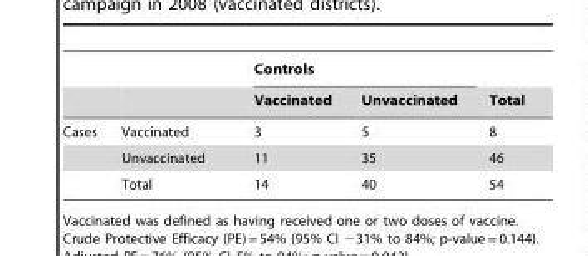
<table><thead><tr><td rowspan="2"></td><td rowspan="2"></td><td colspan="2">Controls</td><td rowspan="2">Total</td></tr><tr><td>Vaccinated</td><td>Unvaccinated</td></tr></thead><tbody><tr><td rowspan="3">Cases</td><td>Vaccinated</td><td>3</td><td>5</td><td>8</td></tr><tr><td>Unvaccinated</td><td>11</td><td>35</td><td>46</td></tr><tr><td>Total</td><td>14</td><td>40</td><td>54</td></tr></tbody></table>